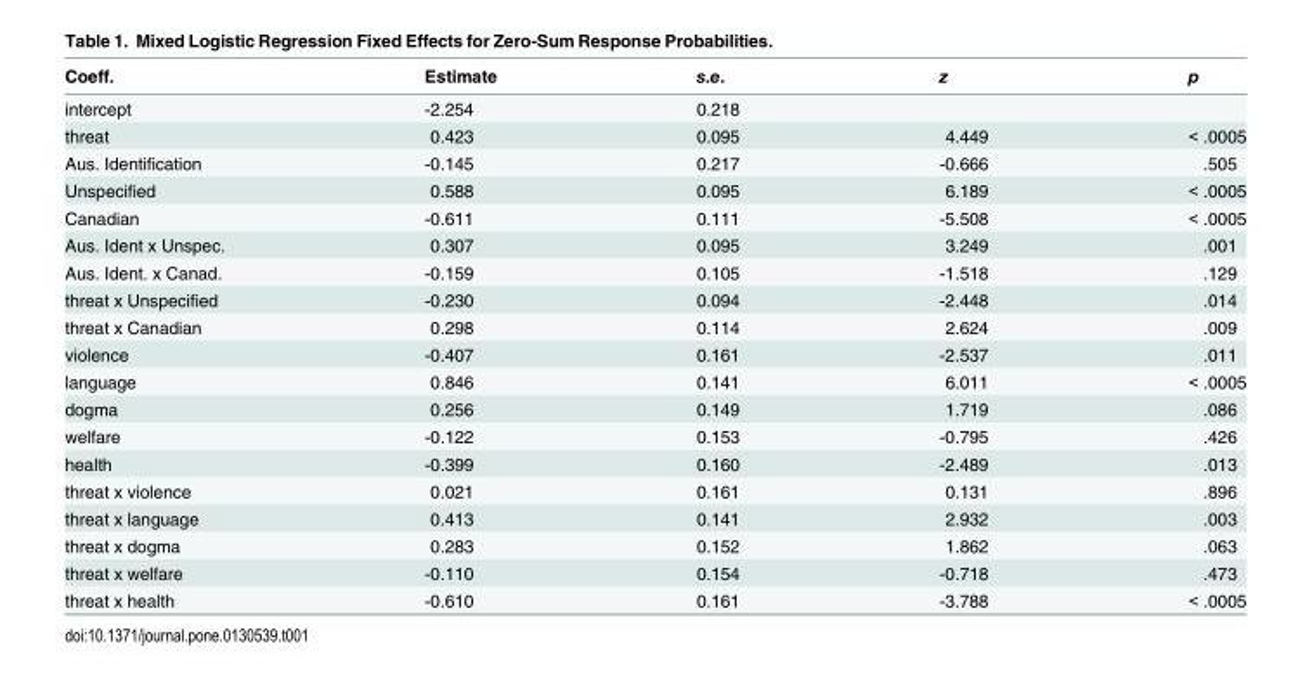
<table><thead><tr><td>Coeff.</td><td>Estimate</td><td>s.e.</td><td>z</td><td>p</td></tr></thead><tbody><tr><td>intercept</td><td>-2.254</td><td>0.218</td><td></td><td></td></tr><tr><td>threat</td><td>0.423</td><td>0.095</td><td>4.449</td><td>&lt; .0005</td></tr><tr><td>Aus. Identification</td><td>-0.145</td><td>0.217</td><td>-0.666</td><td>.505</td></tr><tr><td>Unspecified</td><td>0.588</td><td>0.095</td><td>6.189</td><td>&lt; .0005</td></tr><tr><td>Canadian</td><td>-0.611</td><td>0.111</td><td>-5.508</td><td>&lt; .0005</td></tr><tr><td>Aus. Ident x Unspec.</td><td>0.307</td><td>0.095</td><td>3.249</td><td>.001</td></tr><tr><td>Aus. Ident. x Canad.</td><td>-0.159</td><td>0.105</td><td>-1.518</td><td>.129</td></tr><tr><td>threat x Unspecified</td><td>-0.230</td><td>0.094</td><td>-2.448</td><td>.014</td></tr><tr><td>threat x Canadian</td><td>0.298</td><td>0.114</td><td>2.624</td><td>.009</td></tr><tr><td>violence</td><td>-0.407</td><td>0.161</td><td>-2.537</td><td>.011</td></tr><tr><td>language</td><td>0.846</td><td>0.141</td><td>6.011</td><td>&lt; .0005</td></tr><tr><td>dogma</td><td>0.256</td><td>0.149</td><td>1.719</td><td>.086</td></tr><tr><td>welfare</td><td>-0.122</td><td>0.153</td><td>-0.795</td><td>.426</td></tr><tr><td>health</td><td>-0.399</td><td>0.160</td><td>-2.489</td><td>.013</td></tr><tr><td>threat x violence</td><td>0.021</td><td>0.161</td><td>0.131</td><td>.896</td></tr><tr><td>threat x language</td><td>0.413</td><td>0.141</td><td>2.932</td><td>.003</td></tr><tr><td>threat x dogma</td><td>0.283</td><td>0.152</td><td>1.862</td><td>.063</td></tr><tr><td>threat x welfare</td><td>-0.110</td><td>0.154</td><td>-0.718</td><td>.473</td></tr><tr><td>threat x health</td><td>-0.610</td><td>0.161</td><td>-3.788</td><td>&lt; .0005</td></tr></tbody></table>